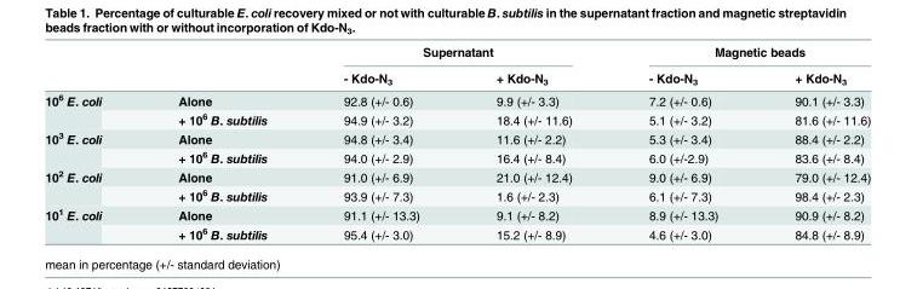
<table><thead><tr><td rowspan="2"></td><td rowspan="2"></td><td colspan="2">Supernatant</td><td colspan="2">Magnetic beads</td></tr><tr><td>- Kdo-N<sub>3</sub></td><td>+ Kdo-N<sub>3</sub></td><td>- Kdo-N<sub>3</sub></td><td>+ Kdo-N<sub>3</sub></td></tr></thead><tbody><tr><td rowspan="2">10<sup>6</sup> E. coli</td><td>Alone</td><td>92.8 (+/- 0.6)</td><td>9.9 (+/- 3.3)</td><td>7.2 (+/- 0.6)</td><td>90.1 (+/- 3.3)</td></tr><tr><td>+ 10<sup>6</sup> B. subtilis</td><td>94.9 (+/- 3.2)</td><td>18.4 (+/- 11.6)</td><td>5.1 (+/- 3.2)</td><td>81.6 (+/- 11.6)</td></tr><tr><td rowspan="2">10<sup>3</sup> E. coli</td><td>Alone</td><td>94.8 (+/- 3.4)</td><td>11.6 (+/- 2.2)</td><td>5.3 (+/- 3.4)</td><td>88.4 (+/- 2.2)</td></tr><tr><td>+ 10<sup>6</sup> B. subtilis</td><td>94.0 (+/- 2.9)</td><td>16.4 (+/- 8.4)</td><td>6.0 (+/-2.9)</td><td>83.6 (+/- 8.4)</td></tr><tr><td rowspan="2">10<sup>2</sup> E. coli</td><td>Alone</td><td>91.0 (+/- 6.9)</td><td>21.0 (+/- 12.4)</td><td>9.0 (+/- 6.9)</td><td>79.0 (+/- 12.4)</td></tr><tr><td>+ 10<sup>6</sup> B. subtilis</td><td>93.9 (+/- 7.3)</td><td>1.6 (+/- 2.3)</td><td>6.1 (+/- 7.3)</td><td>98.4 (+/- 2.3)</td></tr><tr><td rowspan="2">10<sup>1</sup> E. coli</td><td>Alone</td><td>91.1 (+/- 13.3)</td><td>9.1 (+/- 8.2)</td><td>8.9 (+/- 13.3)</td><td>90.9 (+/- 8.2)</td></tr><tr><td>+ 10<sup>6</sup> B. subtilis</td><td>95.4 (+/- 3.0)</td><td>15.2 (+/- 8.9)</td><td>4.6 (+/- 3.0)</td><td>84.8 (+/- 8.9)</td></tr></tbody></table>